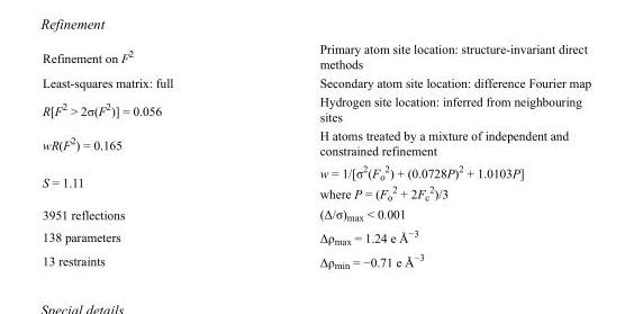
<table><tbody><tr><td>Refinement on F<sup>2</sup></td><td>Primary atom site location: structure-invariant direct methods</td></tr><tr><td>Least-squares matrix: full</td><td>Secondary atom site location: difference Fourier map</td></tr><tr><td>R[F<sup>2</sup> &gt; 2σ(F<sup>2</sup>)] = 0.056</td><td>Hydrogen site location: inferred from neighbouring sites</td></tr><tr><td>wR(F<sup>2</sup>) = 0.165</td><td>H atoms treated by a mixture of independent and constrained refinement</td></tr><tr><td>S = 1.11</td><td>w = 1/[σ<sup>2</sup>(F<sub>o</sub> <sup>2</sup>) + (0.0728P)<sup>2</sup> + 1.0103P] where P = (F<sub>o</sub> <sup>2</sup> + 2F<sub>c</sub> <sup>2</sup>)/3</td></tr><tr><td>3951 reflections</td><td>(Δ/σ)<sub>max</sub> &lt; 0.001</td></tr><tr><td>138 parameters</td><td>Δρ<sub>max</sub> = 1.24 e Å<sup>−3</sup></td></tr><tr><td>13 restraints</td><td>Δρ<sub>min</sub> = −0.71 e Å<sup>−3</sup></td></tr></tbody></table>